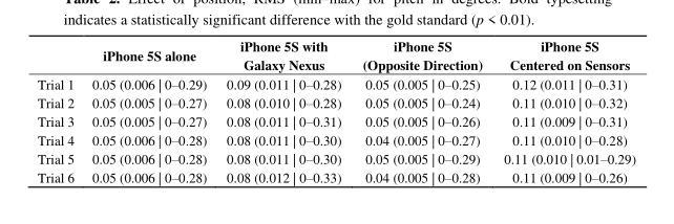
<table><thead><tr><td></td><td>iPhone 5S alone</td><td>iPhone 5S with Galaxy Nexus</td><td>iPhone 5S (Opposite Direction)</td><td>iPhone 5S Centered on Sensors</td></tr></thead><tbody><tr><td>Trial 1</td><td>0.05 (0.006 | 0–0.29)</td><td>0.09 (0.011 | 0–0.28)</td><td>0.05 (0.005 | 0–0.25)</td><td>0.12 (0.011 | 0–0.31)</td></tr><tr><td>Trial 2</td><td>0.05 (0.005 | 0–0.27)</td><td>0.08 (0.010 | 0–0.28)</td><td>0.05 (0.005 | 0–0.24)</td><td>0.11 (0.010 | 0–0.32)</td></tr><tr><td>Trial 3</td><td>0.05 (0.005 | 0–0.27)</td><td>0.08 (0.011 | 0–0.31)</td><td>0.05 (0.005 | 0–0.26)</td><td>0.11 (0.009 | 0–0.31)</td></tr><tr><td>Trial 4</td><td>0.05 (0.006 | 0–0.28)</td><td>0.08 (0.011 | 0–0.30)</td><td>0.04 (0.005 | 0–0.27)</td><td>0.11 (0.010 | 0–0.28)</td></tr><tr><td>Trial 5</td><td>0.05 (0.006 | 0–0.28)</td><td>0.08 (0.011 | 0–0.30)</td><td>0.05 (0.005 | 0–0.29)</td><td>0.11 (0.010 | 0.01–0.29)</td></tr><tr><td>Trial 6</td><td>0.05 (0.006 | 0–0.28)</td><td>0.08 (0.012 | 0–0.33)</td><td>0.04 (0.005 | 0–0.28)</td><td>0.11 (0.009 | 0–0.26)</td></tr></tbody></table>